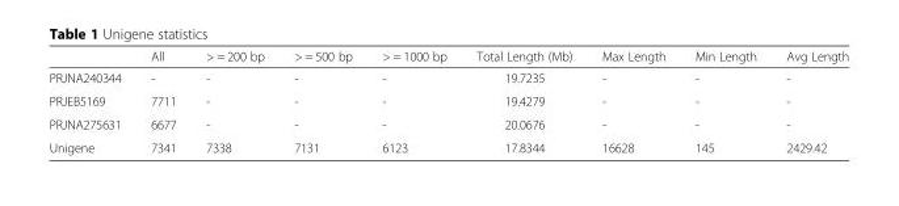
<table><thead><tr><td></td><td>All</td><td>&gt; = 200 bp</td><td>&gt; = 500 bp</td><td>&gt; = 1000 bp</td><td>Total Length (Mb)</td><td>Max Length</td><td>Min Length</td><td>Avg Length</td></tr></thead><tbody><tr><td>PRJNA240344</td><td>-</td><td>-</td><td>-</td><td>-</td><td>19.7235</td><td>-</td><td>-</td><td>-</td></tr><tr><td>PRJEB5169</td><td>7711</td><td>-</td><td>-</td><td>-</td><td>19.4279</td><td>-</td><td>-</td><td>-</td></tr><tr><td>PRJNA275631</td><td>6677</td><td>-</td><td>-</td><td>-</td><td>20.0676</td><td>-</td><td>-</td><td>-</td></tr><tr><td>Unigene</td><td>7341</td><td>7338</td><td>7131</td><td>6123</td><td>17.8344</td><td>16628</td><td>145</td><td>2429.42</td></tr></tbody></table>